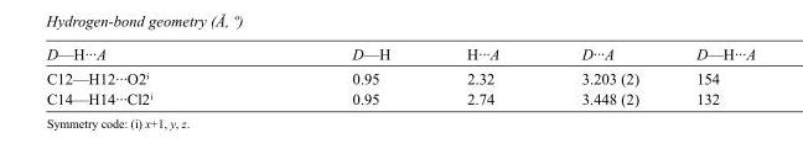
<table><tbody><tr><td>D—H···A</td><td>D—H</td><td>H···A</td><td>D···A</td><td>D—H···A</td></tr><tr><td>C12—H12···O2<sup>i</sup></td><td>0.95</td><td>2.32</td><td>3.203 (2)</td><td>154</td></tr><tr><td>C14—H14···Cl2<sup>i</sup></td><td>0.95</td><td>2.74</td><td>3.448 (2)</td><td>132</td></tr></tbody></table>